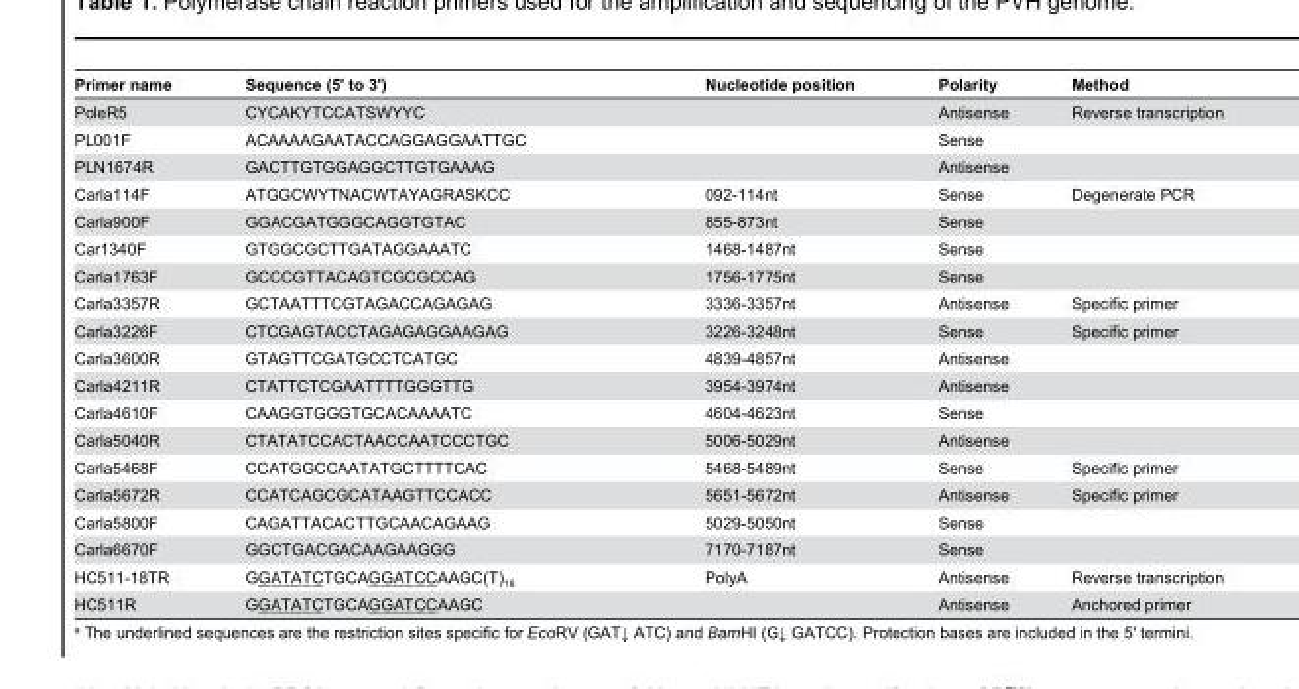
<table><thead><tr><td>Primer name</td><td>Sequence (5&#x27; to 3&#x27;)</td><td>Nucleotide position</td><td>Polarity</td><td>Method</td></tr></thead><tbody><tr><td>PoleR5</td><td>CYCAKYTCCATSWYYC</td><td></td><td>Antisense</td><td>Reverse transcription</td></tr><tr><td>PL001F</td><td>ACAAAAGAATACCAGGAGGAATTGC</td><td></td><td>Sense</td><td></td></tr><tr><td>PLN1674R</td><td>GACTTGTGGAGGCTTGTGAAAG</td><td></td><td>Antisense</td><td></td></tr><tr><td>Carla114F</td><td>ATGGCWYTNACWTAYAGRASKCC</td><td>092-114nt</td><td>Sense</td><td>Degenerate PCR</td></tr><tr><td>Carla900F</td><td>GGACGATGGGCAGGTGTAC</td><td>855-873nt</td><td>Sense</td><td></td></tr><tr><td>Car1340F</td><td>GTGGCGCTTGATAGGAAATC</td><td>1468-1487nt</td><td>Sense</td><td></td></tr><tr><td>Carla1763F</td><td>GCCCGTTACAGTCGCGCCAG</td><td>1756-1775nt</td><td>Sense</td><td></td></tr><tr><td>Carla3357R</td><td>GCTAATTTCGTAGACCAGAGAG</td><td>3336-3357nt</td><td>Antisense</td><td>Specific primer</td></tr><tr><td>Carla3226F</td><td>CTCGAGTACCTAGAGAGGAAGAG</td><td>3226-3248nt</td><td>Sense</td><td>Specific primer</td></tr><tr><td>Carla3600R</td><td>GTAGTTCGATGCCTCATGC</td><td>4839-4857nt</td><td>Antisense</td><td></td></tr><tr><td>Carla4211R</td><td>CTATTCTCGAATTTTGGGTTG</td><td>3954-3974nt</td><td>Antisense</td><td></td></tr><tr><td>Carla4610F</td><td>CAAGGTGGGTGCACAAAATC</td><td>4604-4623nt</td><td>Sense</td><td></td></tr><tr><td>Carla5040R</td><td>CTATATCCACTAACCAATCCCTGC</td><td>5006-5029nt</td><td>Antisense</td><td></td></tr><tr><td>Carla5468F</td><td>CCATGGCCAATATGCTTTTCAC</td><td>5468-5489nt</td><td>Sense</td><td>Specific primer</td></tr><tr><td>Carla5672R</td><td>CCATCAGCGCATAAGTTCCACC</td><td>5651-5672nt</td><td>Antisense</td><td>Specific primer</td></tr><tr><td>Carla5800F</td><td>CAGATTACACTTGCAACAGAAG</td><td>5029-5050nt</td><td>Sense</td><td></td></tr><tr><td>Carla6670F</td><td>GGCTGACGACAAGAAGGG</td><td>7170-7187nt</td><td>Sense</td><td></td></tr><tr><td>HC511-18TR</td><td>GGATATCTGCAGGATCCAAGC(T)<sub>18</sub></td><td>PolyA</td><td>Antisense</td><td>Reverse transcription</td></tr><tr><td>HC511R</td><td>GGATATCTGCAGGATCCAAGC</td><td></td><td>Antisense</td><td>Anchored primer</td></tr></tbody></table>